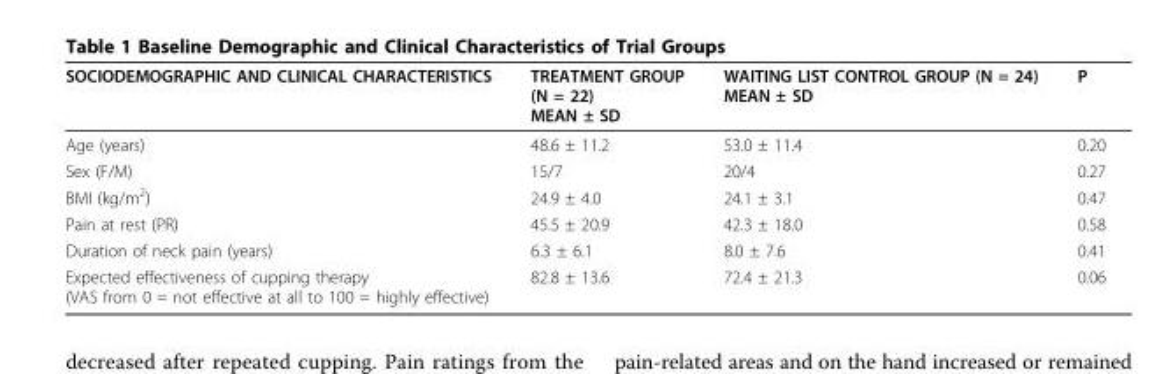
<table><thead><tr><td>SOCIODEMOGRAPHIC AND CLINICAL CHARACTERISTICS</td><td>TREATMENT GROUP (N = 22) MEAN ± SD</td><td>WAITING LIST CONTROL GROUP (N = 24) MEAN ± SD</td><td>P</td></tr></thead><tbody><tr><td>Age (years)</td><td>48.6 ± 11.2</td><td>53.0 ± 11.4</td><td>0.20</td></tr><tr><td>Sex (F/M)</td><td>15/7</td><td>20/4</td><td>0.27</td></tr><tr><td>BMI (kg/m<sup>2</sup>)</td><td>24.9 ± 4.0</td><td>24.1 ± 3.1</td><td>0.47</td></tr><tr><td>Pain at rest (PR)</td><td>45.5 ± 20.9</td><td>42.3 ± 18.0</td><td>0.58</td></tr><tr><td>Duration of neck pain (years)</td><td>6.3 ± 6.1</td><td>8.0 ± 7.6</td><td>0.41</td></tr><tr><td>Expected effectiveness of cupping therapy (VAS from 0 = not effective at all to 100 = highly effective)</td><td>82.8 ± 13.6</td><td>72.4 ± 21.3</td><td>0.06</td></tr></tbody></table>